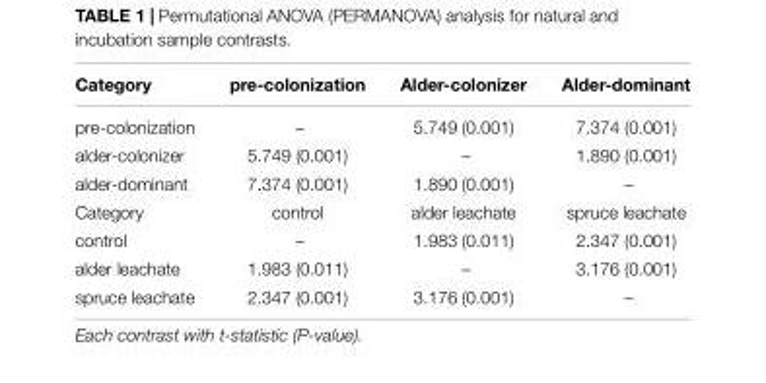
<table><thead><tr><td>Category</td><td>pre-colonization</td><td>Alder-colonizer</td><td>Alder-dominant</td></tr></thead><tbody><tr><td>pre-colonization</td><td>–</td><td>5.749 (0.001)</td><td>7.374 (0.001)</td></tr><tr><td>alder-colonizer</td><td>5.749 (0.001)</td><td>–</td><td>1.890 (0.001)</td></tr><tr><td>alder-dominant</td><td>7.374 (0.001)</td><td>1.890 (0.001)</td><td>–</td></tr><tr><td>Category</td><td>control</td><td>alder leachate</td><td>spruce leachate</td></tr><tr><td>control</td><td>–</td><td>1.983 (0.011)</td><td>2.347 (0.001)</td></tr><tr><td>alder leachate</td><td>1.983 (0.011)</td><td>–</td><td>3.176 (0.001)</td></tr><tr><td>spruce leachate</td><td>2.347 (0.001)</td><td>3.176 (0.001)</td><td>–</td></tr></tbody></table>